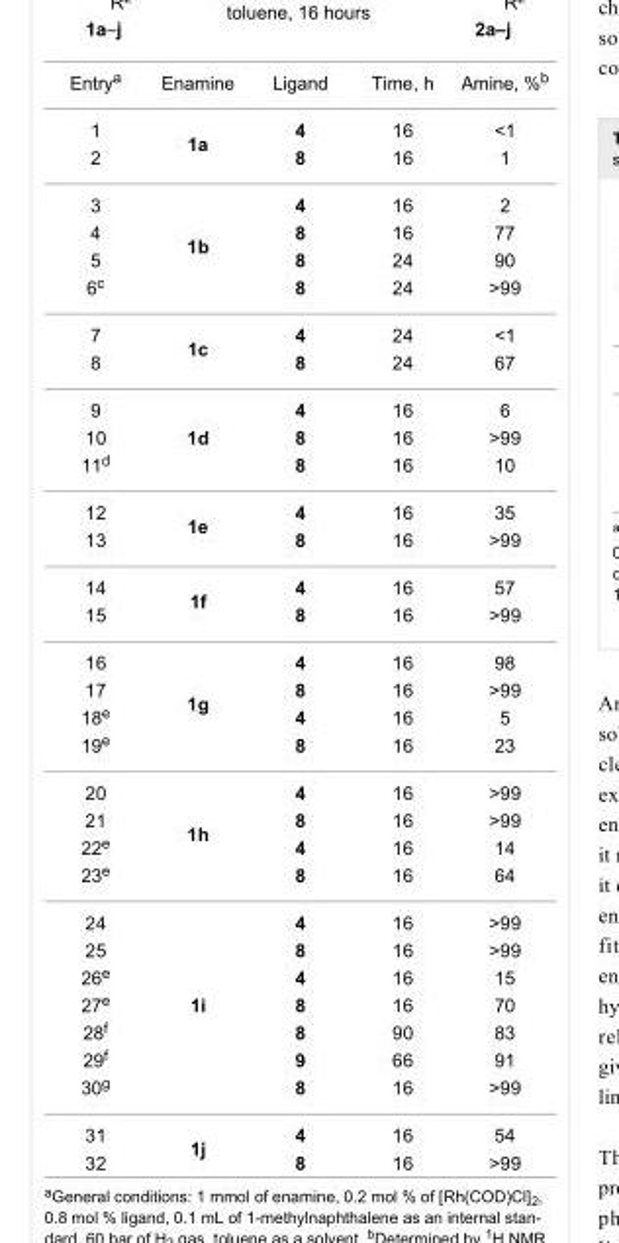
<table><tbody><tr><td>Entry<sup>a</sup></td><td>Enamine</td><td>Ligand</td><td>Time, h</td><td>Amine, %<sup>b</sup></td></tr><tr><td>1</td><td rowspan="2">1a</td><td>4</td><td>16</td><td>&lt;1</td></tr><tr><td>2</td><td>8</td><td>16</td><td>1</td></tr><tr><td>3</td><td rowspan="4">1b</td><td>4</td><td>16</td><td>2</td></tr><tr><td>4</td><td>8</td><td>16</td><td>77</td></tr><tr><td>5</td><td>8</td><td>24</td><td>90</td></tr><tr><td>6<sup>c</sup></td><td>8</td><td>24</td><td>&gt;99</td></tr><tr><td>7</td><td rowspan="2">1c</td><td>4</td><td>24</td><td>&lt;1</td></tr><tr><td>8</td><td>8</td><td>24</td><td>67</td></tr><tr><td>9</td><td rowspan="3">1d</td><td>4</td><td>16</td><td>6</td></tr><tr><td>10</td><td>8</td><td>16</td><td>&gt;99</td></tr><tr><td>11<sup>d</sup></td><td>8</td><td>16</td><td>10</td></tr><tr><td>12</td><td rowspan="2">1e</td><td>4</td><td>16</td><td>35</td></tr><tr><td>13</td><td>8</td><td>16</td><td>&gt;99</td></tr><tr><td>14</td><td rowspan="2">1f</td><td>4</td><td>16</td><td>57</td></tr><tr><td>15</td><td>8</td><td>16</td><td>&gt;99</td></tr><tr><td>16</td><td rowspan="4">1g</td><td>4</td><td>16</td><td>98</td></tr><tr><td>17</td><td>8</td><td>16</td><td>&gt;99</td></tr><tr><td>18<sup>e</sup></td><td>4</td><td>16</td><td>5</td></tr><tr><td>19<sup>e</sup></td><td>8</td><td>16</td><td>23</td></tr><tr><td>20</td><td rowspan="4">1h</td><td>4</td><td>16</td><td>&gt;99</td></tr><tr><td>21</td><td>8</td><td>16</td><td>&gt;99</td></tr><tr><td>22<sup>e</sup></td><td>4</td><td>16</td><td>14</td></tr><tr><td>23<sup>e</sup></td><td>8</td><td>16</td><td>64</td></tr><tr><td>24</td><td rowspan="7">1i</td><td>4</td><td>16</td><td>&gt;99</td></tr><tr><td>25</td><td>8</td><td>16</td><td>&gt;99</td></tr><tr><td>26<sup>e</sup></td><td>4</td><td>16</td><td>15</td></tr><tr><td>27<sup>e</sup></td><td>8</td><td>16</td><td>70</td></tr><tr><td>28<sup>f</sup></td><td>8</td><td>90</td><td>83</td></tr><tr><td>29<sup>f</sup></td><td>9</td><td>66</td><td>91</td></tr><tr><td>30<sup>g</sup></td><td>8</td><td>16</td><td>&gt;99</td></tr><tr><td>31</td><td rowspan="2">1j</td><td>4</td><td>16</td><td>54</td></tr><tr><td>32</td><td>8</td><td>16</td><td>&gt;99</td></tr></tbody></table>